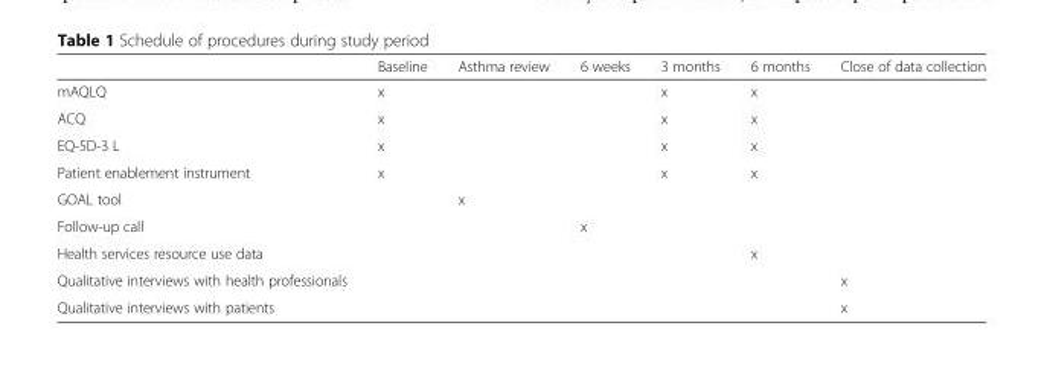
<table><thead><tr><td></td><td>Baseline</td><td>Asthma review</td><td>6 weeks</td><td>3 months</td><td>6 months</td><td>Close of data collection</td></tr></thead><tbody><tr><td>mAQLQ</td><td>x</td><td></td><td></td><td>x</td><td>x</td><td></td></tr><tr><td>ACQ</td><td>x</td><td></td><td></td><td>x</td><td>x</td><td></td></tr><tr><td>EQ-5D-3 L</td><td>x</td><td></td><td></td><td>x</td><td>x</td><td></td></tr><tr><td>Patient enablement instrument</td><td>x</td><td></td><td></td><td>x</td><td>x</td><td></td></tr><tr><td>GOAL tool</td><td></td><td>x</td><td></td><td></td><td></td><td></td></tr><tr><td>Follow-up call</td><td></td><td></td><td>x</td><td></td><td></td><td></td></tr><tr><td>Health services resource use data</td><td></td><td></td><td></td><td></td><td>x</td><td></td></tr><tr><td>Qualitative interviews with health professionals</td><td></td><td></td><td></td><td></td><td></td><td>x</td></tr><tr><td>Qualitative interviews with patients</td><td></td><td></td><td></td><td></td><td></td><td>x</td></tr></tbody></table>